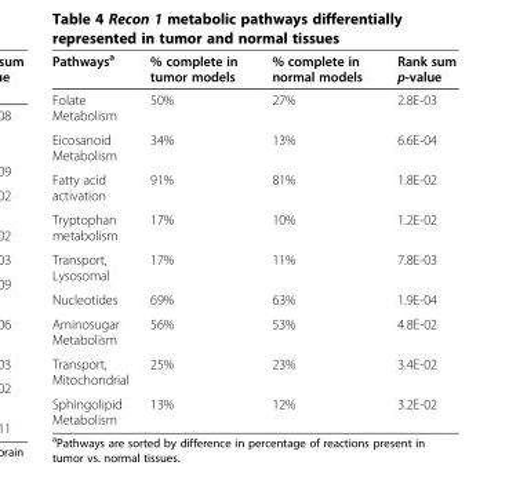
<table><thead><tr><td>Pathways<sup>a</sup></td><td>% complete in tumor models</td><td>% complete in normal models</td><td>Rank sum p-value</td></tr></thead><tbody><tr><td>Folate Metabolism</td><td>50%</td><td>27%</td><td>2.8E-03</td></tr><tr><td>Eicosanoid Metabolism</td><td>34%</td><td>13%</td><td>6.6E-04</td></tr><tr><td>Fatty acid activation</td><td>91%</td><td>81%</td><td>1.8E-02</td></tr><tr><td>Tryptophan metabolism</td><td>17%</td><td>10%</td><td>1.2E-02</td></tr><tr><td>Transport, Lysosomal</td><td>17%</td><td>11%</td><td>7.8E-03</td></tr><tr><td>Nucleotides</td><td>69%</td><td>63%</td><td>1.9E-04</td></tr><tr><td>Aminosugar Metabolism</td><td>56%</td><td>53%</td><td>4.8E-02</td></tr><tr><td>Transport, Mitochondrial</td><td>25%</td><td>23%</td><td>3.4E-02</td></tr><tr><td>Sphingolipid Metabolism</td><td>13%</td><td>12%</td><td>3.2E-02</td></tr></tbody></table>